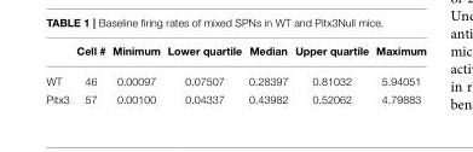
<table><thead><tr><td></td><td>Cell #</td><td>Minimum</td><td>Lower quartile</td><td>Median</td><td>Upper quartile</td><td>Maximum</td></tr></thead><tbody><tr><td>WT</td><td>46</td><td>0.00097</td><td>0.07507</td><td>0.28397</td><td>0.81032</td><td>5.94051</td></tr><tr><td>Pitx3</td><td>57</td><td>0.00100</td><td>0.04337</td><td>0.43982</td><td>0.52062</td><td>4.79883</td></tr></tbody></table>